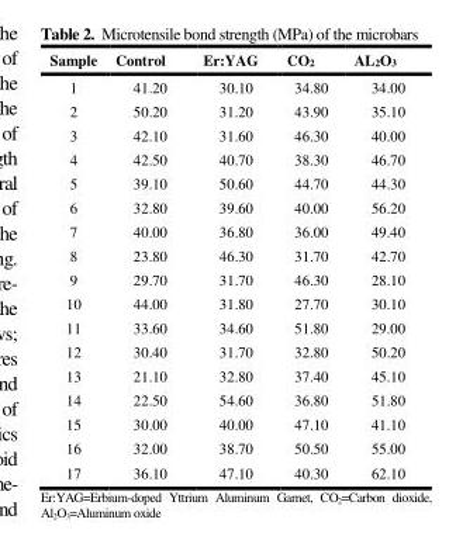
<table><thead><tr><td>Sample</td><td>Control</td><td>Er:YAG</td><td>CO<sub>2</sub></td><td>AL<sub>2</sub>O<sub>3</sub></td></tr></thead><tbody><tr><td>1</td><td>41.20</td><td>30.10</td><td>34.80</td><td>34.00</td></tr><tr><td>2</td><td>50.20</td><td>31.20</td><td>43.90</td><td>35.10</td></tr><tr><td>3</td><td>42.10</td><td>31.60</td><td>46.30</td><td>40.00</td></tr><tr><td>4</td><td>42.50</td><td>40.70</td><td>38.30</td><td>46.70</td></tr><tr><td>5</td><td>39.10</td><td>50.60</td><td>44.70</td><td>44.30</td></tr><tr><td>6</td><td>32.80</td><td>39.60</td><td>40.00</td><td>56.20</td></tr><tr><td>7</td><td>40.00</td><td>36.80</td><td>36.00</td><td>49.40</td></tr><tr><td>8</td><td>23.80</td><td>46.30</td><td>31.70</td><td>42.70</td></tr><tr><td>9</td><td>29.70</td><td>31.70</td><td>46.30</td><td>28.10</td></tr><tr><td>10</td><td>44.00</td><td>31.80</td><td>27.70</td><td>30.10</td></tr><tr><td>11</td><td>33.60</td><td>34.60</td><td>51.80</td><td>29.00</td></tr><tr><td>12</td><td>30.40</td><td>31.70</td><td>32.80</td><td>50.20</td></tr><tr><td>13</td><td>21.10</td><td>32.80</td><td>37.40</td><td>45.10</td></tr><tr><td>14</td><td>22.50</td><td>54.60</td><td>36.80</td><td>51.80</td></tr><tr><td>15</td><td>30.00</td><td>40.00</td><td>47.10</td><td>41.10</td></tr><tr><td>16</td><td>32.00</td><td>38.70</td><td>50.50</td><td>55.00</td></tr><tr><td>17</td><td>36.10</td><td>47.10</td><td>40.30</td><td>62.10</td></tr></tbody></table>